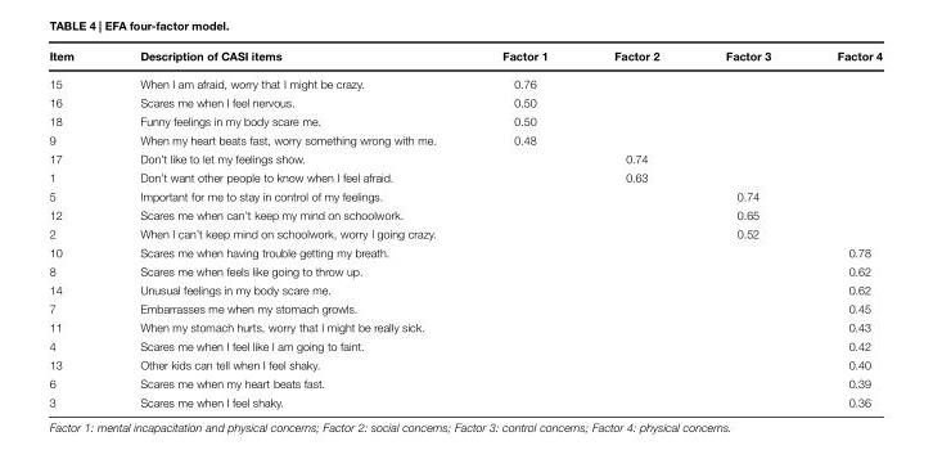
<table><thead><tr><td>Item</td><td>Description of CASI items</td><td>Factor 1</td><td>Factor 2</td><td>Factor 3</td><td>Factor 4</td></tr></thead><tbody><tr><td>15</td><td>When I am afraid, worry that I might be crazy.</td><td>0.76</td><td></td><td></td><td></td></tr><tr><td>16</td><td>Scares me when I feel nervous.</td><td>0.50</td><td></td><td></td><td></td></tr><tr><td>18</td><td>Funny feelings in my body scare me.</td><td>0.50</td><td></td><td></td><td></td></tr><tr><td>9</td><td>When my heart beats fast, worry something wrong with me.</td><td>0.48</td><td></td><td></td><td></td></tr><tr><td>17</td><td>Don’t like to let my feelings show.</td><td></td><td>0.74</td><td></td><td></td></tr><tr><td>1</td><td>Don’t want other people to know when I feel afraid.</td><td></td><td>0.63</td><td></td><td></td></tr><tr><td>5</td><td>Important for me to stay in control of my feelings.</td><td></td><td></td><td>0.74</td><td></td></tr><tr><td>12</td><td>Scares me when can’t keep my mind on schoolwork.</td><td></td><td></td><td>0.65</td><td></td></tr><tr><td>2</td><td>When I can’t keep mind on schoolwork, worry I going crazy.</td><td></td><td></td><td>0.52</td><td></td></tr><tr><td>10</td><td>Scares me when having trouble getting my breath.</td><td></td><td></td><td></td><td>0.78</td></tr><tr><td>8</td><td>Scares me when feels like going to throw up.</td><td></td><td></td><td></td><td>0.62</td></tr><tr><td>14</td><td>Unusual feelings in my body scare me.</td><td></td><td></td><td></td><td>0.62</td></tr><tr><td>7</td><td>Embarrasses me when my stomach growls.</td><td></td><td></td><td></td><td>0.45</td></tr><tr><td>11</td><td>When my stomach hurts, worry that I might be really sick.</td><td></td><td></td><td></td><td>0.43</td></tr><tr><td>4</td><td>Scares me when I feel like I am going to faint.</td><td></td><td></td><td></td><td>0.42</td></tr><tr><td>13</td><td>Other kids can tell when I feel shaky.</td><td></td><td></td><td></td><td>0.40</td></tr><tr><td>6</td><td>Scares me when my heart beats fast.</td><td></td><td></td><td></td><td>0.39</td></tr><tr><td>3</td><td>Scares me when I feel shaky.</td><td></td><td></td><td></td><td>0.36</td></tr></tbody></table>